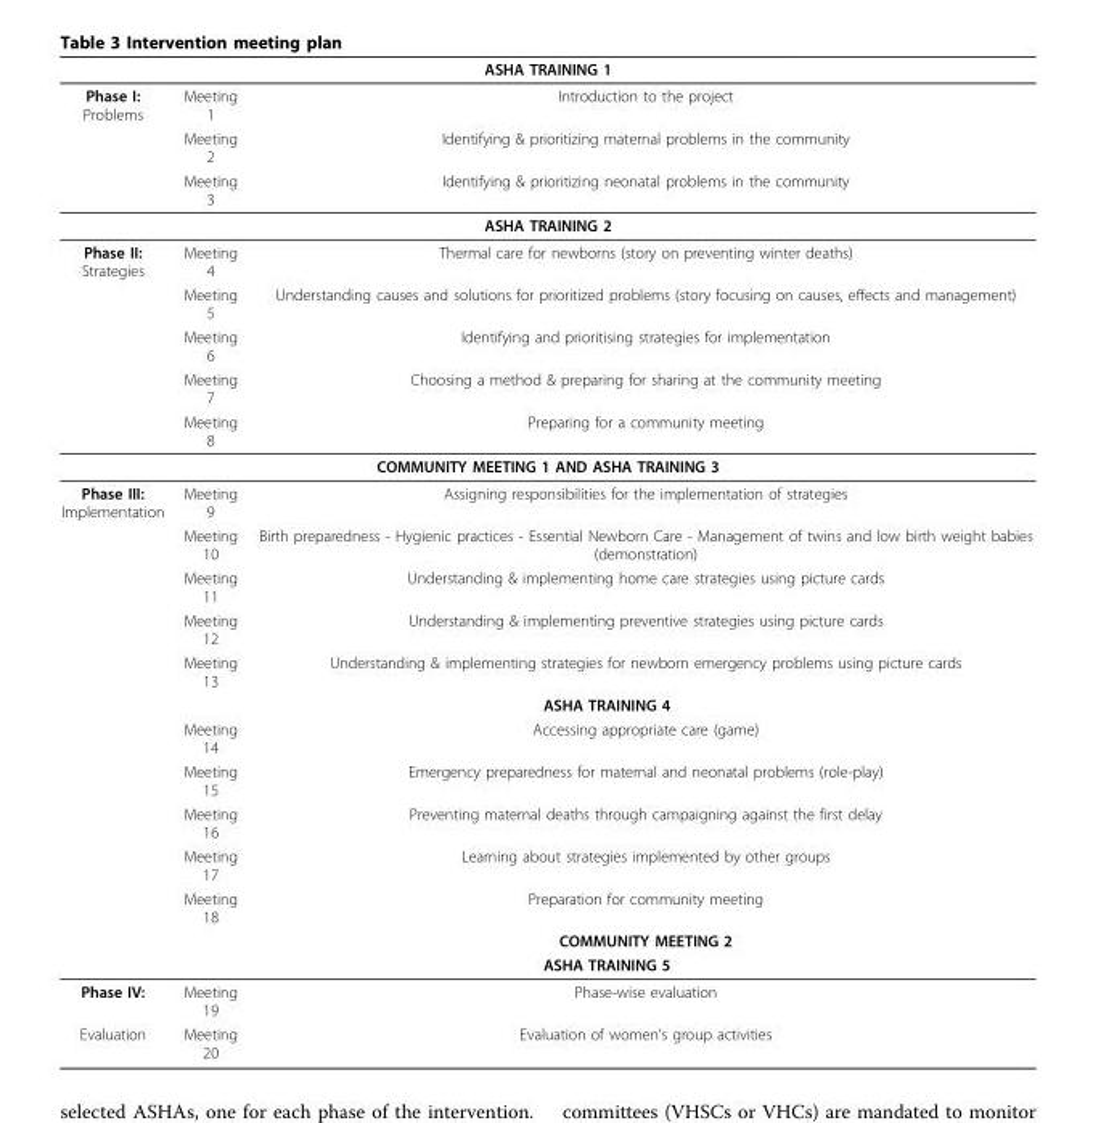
<table><thead><tr><td colspan="3">ASHA TRAINING 1</td></tr><tr><td>Phase I: Problems</td><td>Meeting 1</td><td>Introduction to the project</td></tr></thead><tbody><tr><td></td><td>Meeting 2</td><td>Identifying &amp; prioritizing maternal problems in the community</td></tr><tr><td></td><td>Meeting 3</td><td>Identifying &amp; prioritizing neonatal problems in the community</td></tr><tr><td colspan="3">ASHA TRAINING 2</td></tr><tr><td rowspan="5">Phase II: Strategies</td><td>Meeting 4</td><td>Thermal care for newborns (story on preventing winter deaths)</td></tr><tr><td>Meeting 5</td><td>Understanding causes and solutions for prioritized problems (story focusing on causes, effects and management)</td></tr><tr><td>Meeting 6</td><td>Identifying and prioritising strategies for implementation</td></tr><tr><td>Meeting 7</td><td>Choosing a method &amp; preparing for sharing at the community meeting</td></tr><tr><td>Meeting 8</td><td>Preparing for a community meeting</td></tr><tr><td colspan="3">COMMUNITY MEETING 1 AND ASHA TRAINING 3</td></tr><tr><td rowspan="13">Phase III: Implementation</td><td>Meeting 9</td><td>Assigning responsibilities for the implementation of strategies</td></tr><tr><td>Meeting 10</td><td>Birth preparedness - Hygienic practices - Essential Newborn Care - Management of twins and low birth weight babies (demonstration)</td></tr><tr><td>Meeting 11</td><td>Understanding &amp; implementing home care strategies using picture cards</td></tr><tr><td>Meeting 12</td><td>Understanding &amp; implementing preventive strategies using picture cards</td></tr><tr><td>Meeting 13</td><td>Understanding &amp; implementing strategies for newborn emergency problems using picture cards</td></tr><tr><td colspan="2">ASHA TRAINING 4</td></tr><tr><td>Meeting 14</td><td>Accessing appropriate care (game)</td></tr><tr><td>Meeting 15</td><td>Emergency preparedness for maternal and neonatal problems (role-play)</td></tr><tr><td>Meeting 16</td><td>Preventing maternal deaths through campaigning against the first delay</td></tr><tr><td>Meeting 17</td><td>Learning about strategies implemented by other groups</td></tr><tr><td>Meeting 18</td><td>Preparation for community meeting</td></tr><tr><td></td><td>COMMUNITY MEETING 2</td></tr><tr><td colspan="2">ASHA TRAINING 5</td></tr><tr><td>Phase IV:</td><td>Meeting 19</td><td>Phase-wise evaluation</td></tr><tr><td>Evaluation</td><td>Meeting 20</td><td>Evaluation of women’s group activities</td></tr></tbody></table>